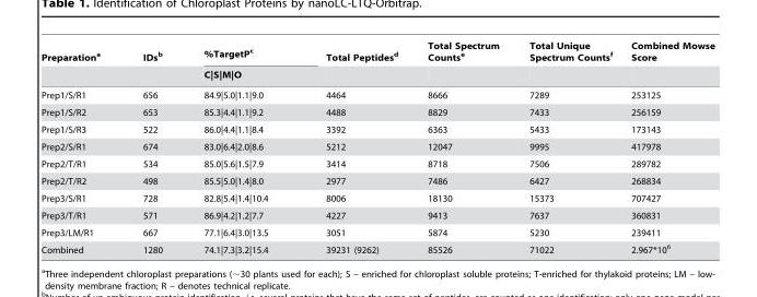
<table><thead><tr><td rowspan="2">Preparation<sup>a</sup></td><td rowspan="2">IDs<sup>b</sup></td><td rowspan="2">%TargetP<sup>c</sup> C|S|M|O</td><td rowspan="2">Total Peptides<sup>d</sup></td><td rowspan="2">Total Spectrum Counts<sup>e</sup></td><td rowspan="2">Total Unique Spectrum Counts<sup>f</sup></td><td rowspan="2">Combined Mowse Score</td></tr><tr></tr></thead><tbody><tr><td>Prep1/S/R1</td><td>656</td><td>84.9|5.0|1.1|9.0</td><td>4464</td><td>8666</td><td>7289</td><td>253125</td></tr><tr><td>Prep1/S/R2</td><td>653</td><td>85.3|4.4|1.1|9.2</td><td>4488</td><td>8829</td><td>7433</td><td>256159</td></tr><tr><td>Prep1/S/R3</td><td>522</td><td>86.0|4.4|1.1|8.4</td><td>3392</td><td>6363</td><td>5433</td><td>173143</td></tr><tr><td>Prep2/S/R1</td><td>674</td><td>83.0|6.4|2.0|8.6</td><td>5212</td><td>12047</td><td>9995</td><td>417978</td></tr><tr><td>Prep2/T/R1</td><td>534</td><td>85.0|5.6|1.5|7.9</td><td>3414</td><td>8718</td><td>7506</td><td>289782</td></tr><tr><td>Prep2/T/R2</td><td>498</td><td>85.5|5.0|1.4|8.0</td><td>2977</td><td>7486</td><td>6427</td><td>268834</td></tr><tr><td>Prep3/S/R1</td><td>728</td><td>82.8|5.4|1.4|10.4</td><td>8006</td><td>18130</td><td>15373</td><td>707427</td></tr><tr><td>Prep3/T/R1</td><td>571</td><td>86.9|4.2|1.2|7.7</td><td>4227</td><td>9413</td><td>7637</td><td>360831</td></tr><tr><td>Prep3/LM/R1</td><td>667</td><td>77.1|6.4|3.0|13.5</td><td>3051</td><td>5874</td><td>5230</td><td>239411</td></tr><tr><td>Combined</td><td>1280</td><td>74.1|7.3|3.2|15.4</td><td>39231 (9262)</td><td>85526</td><td>71022</td><td>2.967*10<sup>6</sup></td></tr></tbody></table>